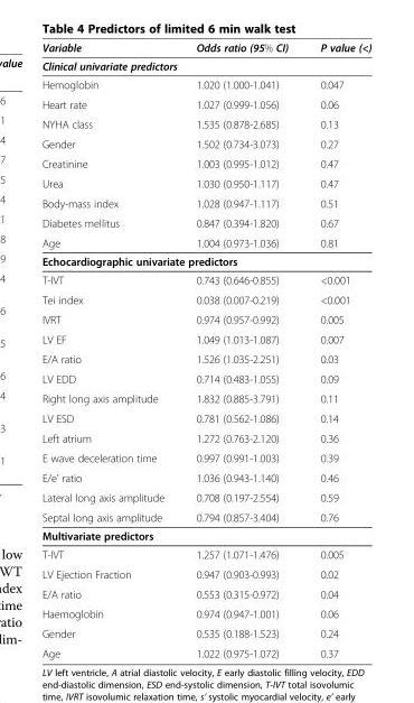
<table><thead><tr><td>Variable</td><td>Odds ratio (95% CI)</td><td>P value (&lt;)</td></tr></thead><tbody><tr><td colspan="3">Clinical univariate predictors</td></tr><tr><td>Hemoglobin</td><td>1.020 (1.000-1.041)</td><td>0.047</td></tr><tr><td>Heart rate</td><td>1.027 (0.999-1.056)</td><td>0.06</td></tr><tr><td>NYHA class</td><td>1.535 (0.878-2.685)</td><td>0.13</td></tr><tr><td>Gender</td><td>1.502 (0.734-3.073)</td><td>0.27</td></tr><tr><td>Creatinine</td><td>1.003 (0.995-1.012)</td><td>0.47</td></tr><tr><td>Urea</td><td>1.030 (0.950-1.117)</td><td>0.47</td></tr><tr><td>Body-mass index</td><td>1.028 (0.947-1.117)</td><td>0.51</td></tr><tr><td>Diabetes mellitus</td><td>0.847 (0.394-1.820)</td><td>0.67</td></tr><tr><td>Age</td><td>1.004 (0.973-1.036)</td><td>0.81</td></tr><tr><td colspan="3">Echocardiographic univariate predictors</td></tr><tr><td>T-IVT</td><td>0.743 (0.646-0.855)</td><td>&lt;0.001</td></tr><tr><td>Tei index</td><td>0.038 (0.007-0.219)</td><td>&lt;0.001</td></tr><tr><td>IVRT</td><td>0.974 (0.957-0.992)</td><td>0.005</td></tr><tr><td>LV EF</td><td>1.049 (1.013-1.087)</td><td>0.007</td></tr><tr><td>E/A ratio</td><td>1.526 (1.035-2.251)</td><td>0.03</td></tr><tr><td>LV EDD</td><td>0.714 (0.483-1.055)</td><td>0.09</td></tr><tr><td>Right long axis amplitude</td><td>1.832 (0.885-3.791)</td><td>0.11</td></tr><tr><td>LV ESD</td><td>0.781 (0.562-1.086)</td><td>0.14</td></tr><tr><td>Left atrium</td><td>1.272 (0.763-2.120)</td><td>0.36</td></tr><tr><td>E wave deceleration time</td><td>0.997 (0.991-1.003)</td><td>0.39</td></tr><tr><td>E/e’ ratio</td><td>1.036 (0.943-1.140)</td><td>0.46</td></tr><tr><td>Lateral long axis amplitude</td><td>0.708 (0.197-2.554)</td><td>0.59</td></tr><tr><td>Septal long axis amplitude</td><td>0.794 (0.857-3.404)</td><td>0.76</td></tr><tr><td colspan="3">Multivariate predictors</td></tr><tr><td>T-IVT</td><td>1.257 (1.071-1.476)</td><td>0.005</td></tr><tr><td>LV Ejection Fraction</td><td>0.947 (0.903-0.993)</td><td>0.02</td></tr><tr><td>E/A ratio</td><td>0.553 (0.315-0.972)</td><td>0.04</td></tr><tr><td>Haemoglobin</td><td>0.974 (0.947-1.001)</td><td>0.06</td></tr><tr><td>Gender</td><td>0.535 (0.188-1.523)</td><td>0.24</td></tr><tr><td>Age</td><td>1.022 (0.975-1.072)</td><td>0.37</td></tr></tbody></table>